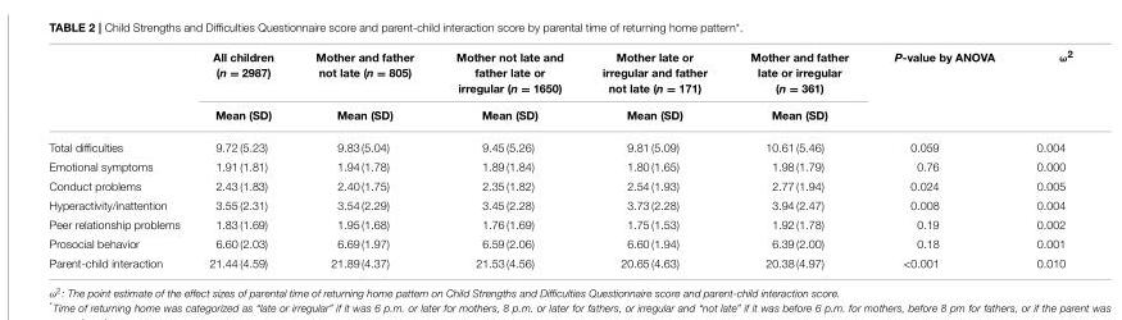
<table><thead><tr><td rowspan="2"></td><td rowspan="2">All children (n = 2987) Mean (SD)</td><td rowspan="2">Mother and father not late (n = 805) Mean (SD)</td><td rowspan="2">Mother not late and father late or irregular (n = 1650) Mean (SD)</td><td rowspan="2">Mother late or irregular and father not late (n = 171) Mean (SD)</td><td rowspan="2">Mother and father late or irregular (n = 361) Mean (SD)</td><td rowspan="2">P-value by ANOVA</td><td rowspan="2">ω<sup>2</sup></td></tr><tr></tr></thead><tbody><tr><td>Total difficulties</td><td>9.72 (5.23)</td><td>9.83 (5.04)</td><td>9.45 (5.26)</td><td>9.81 (5.09)</td><td>10.61 (5.46)</td><td>0.059</td><td>0.004</td></tr><tr><td>Emotional symptoms</td><td>1.91 (1.81)</td><td>1.94 (1.78)</td><td>1.89 (1.84)</td><td>1.80 (1.65)</td><td>1.98 (1.79)</td><td>0.76</td><td>0.000</td></tr><tr><td>Conduct problems</td><td>2.43 (1.83)</td><td>2.40 (1.75)</td><td>2.35 (1.82)</td><td>2.54 (1.93)</td><td>2.77 (1.94)</td><td>0.024</td><td>0.005</td></tr><tr><td>Hyperactivity/inattention</td><td>3.55 (2.31)</td><td>3.54 (2.29)</td><td>3.45 (2.28)</td><td>3.73 (2.28)</td><td>3.94 (2.47)</td><td>0.008</td><td>0.004</td></tr><tr><td>Peer relationship problems</td><td>1.83 (1.69)</td><td>1.95 (1.68)</td><td>1.76 (1.69)</td><td>1.75 (1.53)</td><td>1.92 (1.78)</td><td>0.19</td><td>0.002</td></tr><tr><td>Prosocial behavior</td><td>6.60 (2.03)</td><td>6.69 (1.97)</td><td>6.59 (2.06)</td><td>6.60 (1.94)</td><td>6.39 (2.00)</td><td>0.18</td><td>0.001</td></tr><tr><td>Parent-child interaction</td><td>21.44 (4.59)</td><td>21.89 (4.37)</td><td>21.53 (4.56)</td><td>20.65 (4.63)</td><td>20.38 (4.97)</td><td>&lt;0.001</td><td>0.010</td></tr></tbody></table>